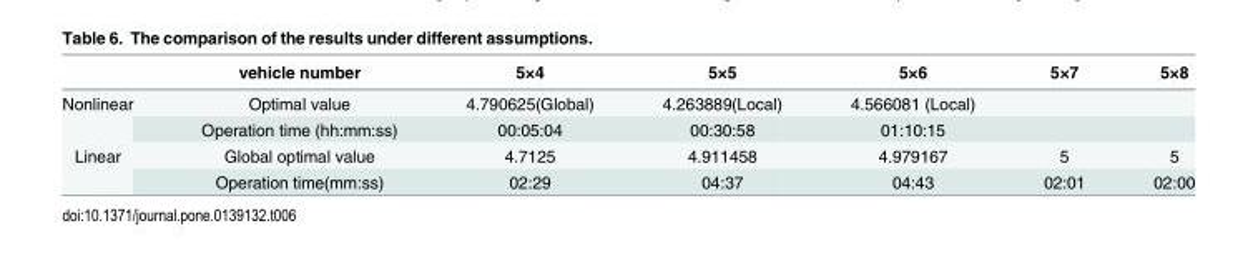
<table><thead><tr><td></td><td>vehicle number</td><td>5×4</td><td>5×5</td><td>5×6</td><td>5×7</td><td>5×8</td></tr></thead><tbody><tr><td rowspan="2">Nonlinear</td><td>Optimal value</td><td>4.790625(Global)</td><td>4.263889(Local)</td><td>4.566081 (Local)</td><td></td><td></td></tr><tr><td>Operation time (hh:mm:ss)</td><td>00:05:04</td><td>00:30:58</td><td>01:10:15</td><td></td><td></td></tr><tr><td rowspan="2">Linear</td><td>Global optimal value</td><td>4.7125</td><td>4.911458</td><td>4.979167</td><td>5</td><td>5</td></tr><tr><td>Operation time(mm:ss)</td><td>02:29</td><td>04:37</td><td>04:43</td><td>02:01</td><td>02:00</td></tr></tbody></table>